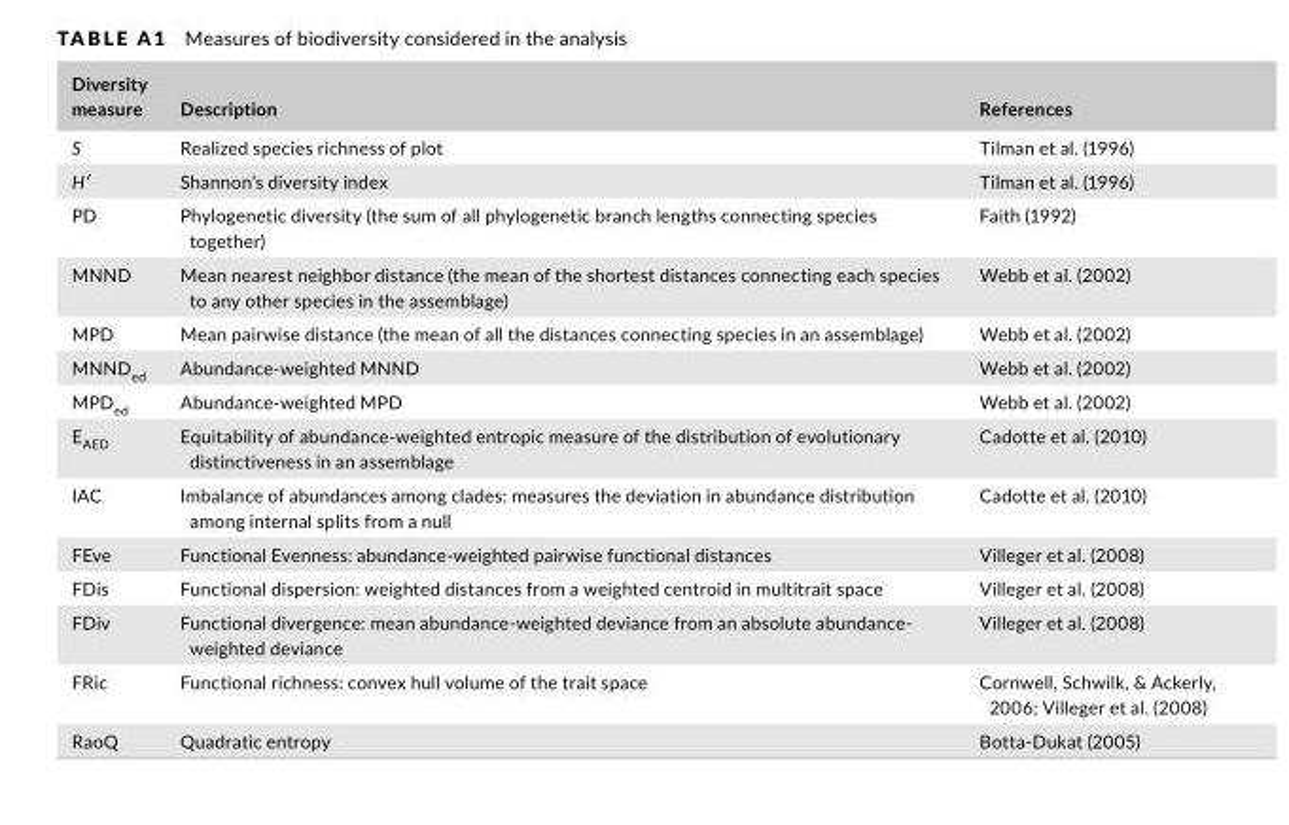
<table><thead><tr><td>Diversity measure</td><td>Description</td><td>References</td></tr></thead><tbody><tr><td>S</td><td>Realized species richness of plot</td><td>Tilman et al. (1996)</td></tr><tr><td>H′</td><td>Shannon’s diversity index</td><td>Tilman et al. (1996)</td></tr><tr><td>PD</td><td>Phylogenetic diversity (the sum of all phylogenetic branch lengths connecting species together)</td><td>Faith (1992)</td></tr><tr><td>MNND</td><td>Mean nearest neighbor distance (the mean of the shortest distances connecting each species to any other species in the assemblage)</td><td>Webb et al. (2002)</td></tr><tr><td>MPD</td><td>Mean pairwise distance (the mean of all the distances connecting species in an assemblage)</td><td>Webb et al. (2002)</td></tr><tr><td>MNND<sub>ed</sub></td><td>Abundance- weighted MNND</td><td>Webb et al. (2002)</td></tr><tr><td>MPD<sub>ed</sub></td><td>Abundance- weighted MPD</td><td>Webb et al. (2002)</td></tr><tr><td>E<sub>AED</sub></td><td>Equitability of abundance- weighted entropic measure of the distribution of evolutionary distinctiveness in an assemblage</td><td>Cadotte et al. (2010)</td></tr><tr><td>IAC</td><td>Imbalance of abundances among clades: measures the deviation in abundance distribution among internal splits from a null</td><td>Cadotte et al. (2010)</td></tr><tr><td>FEve</td><td>Functional Evenness: abundance- weighted pairwise functional distances</td><td>Villeger et al. (2008)</td></tr><tr><td>FDis</td><td>Functional dispersion: weighted distances from a weighted centroid in multitrait space</td><td>Villeger et al. (2008)</td></tr><tr><td>FDiv</td><td>Functional divergence: mean abundance- weighted deviance from an absolute abundance- weighted deviance</td><td>Villeger et al. (2008)</td></tr><tr><td>FRic</td><td>Functional richness: convex hull volume of the trait space</td><td>Cornwell, Schwilk, &amp; Ackerly, 2006; Villeger et al. (2008)</td></tr><tr><td>RaoQ</td><td>Quadratic entropy</td><td>Botta- Dukat (2005)</td></tr></tbody></table>